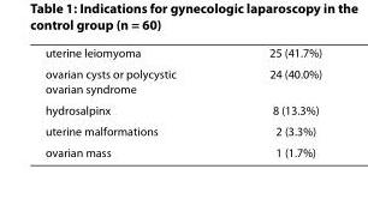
<table><tbody><tr><td>uterine leiomyoma</td><td>25 (41.7%)</td></tr><tr><td>ovarian cysts or polycystic ovarian syndrome</td><td>24 (40.0%)</td></tr><tr><td>hydrosalpinx</td><td>8 (13.3%)</td></tr><tr><td>uterine malformations</td><td>2 (3.3%)</td></tr><tr><td>ovarian mass</td><td>1 (1.7%)</td></tr></tbody></table>